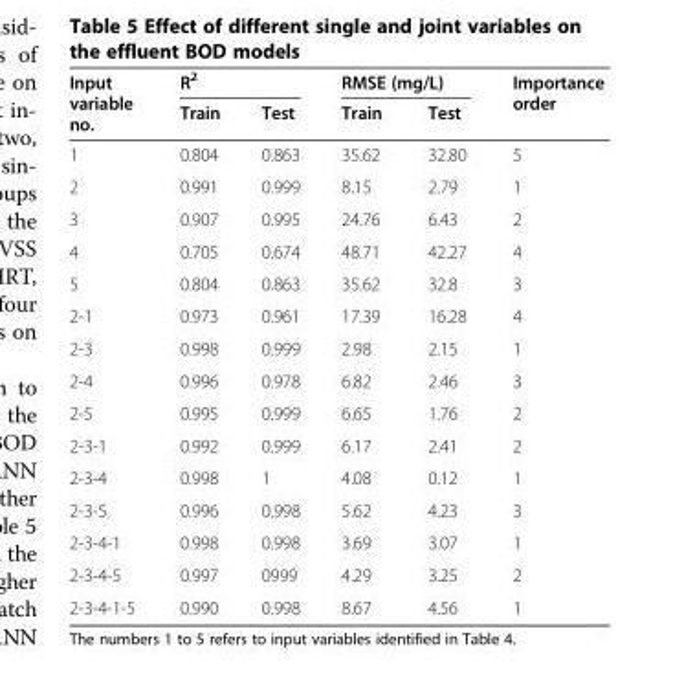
<table><thead><tr><td rowspan="2">Input variable no.</td><td colspan="2">R<sup>2</sup></td><td colspan="2">RMSE (mg/L)</td><td rowspan="2">Importance order</td></tr><tr><td>Train</td><td>Test</td><td>Train</td><td>Test</td></tr></thead><tbody><tr><td>1</td><td>0.804</td><td>0.863</td><td>35.62</td><td>32.80</td><td>5</td></tr><tr><td>2</td><td>0.991</td><td>0.999</td><td>8.15</td><td>2.79</td><td>1</td></tr><tr><td>3</td><td>0.907</td><td>0.995</td><td>24.76</td><td>6.43</td><td>2</td></tr><tr><td>4</td><td>0.705</td><td>0.674</td><td>48.71</td><td>42.27</td><td>4</td></tr><tr><td>5</td><td>0.804</td><td>0.863</td><td>35.62</td><td>32.8</td><td>3</td></tr><tr><td>2-1</td><td>0.973</td><td>0.961</td><td>17.39</td><td>16.28</td><td>4</td></tr><tr><td>2-3</td><td>0.998</td><td>0.999</td><td>2.98</td><td>2.15</td><td>1</td></tr><tr><td>2-4</td><td>0.996</td><td>0.978</td><td>6.82</td><td>2.46</td><td>3</td></tr><tr><td>2-5</td><td>0.995</td><td>0.999</td><td>6.65</td><td>1.76</td><td>2</td></tr><tr><td>2-3-1</td><td>0.992</td><td>0.999</td><td>6.17</td><td>2.41</td><td>2</td></tr><tr><td>2-3-4</td><td>0.998</td><td>1</td><td>4.08</td><td>0.12</td><td>1</td></tr><tr><td>2-3-5</td><td>0.996</td><td>0.998</td><td>5.62</td><td>4.23</td><td>3</td></tr><tr><td>2-3-4-1</td><td>0.998</td><td>0.998</td><td>3.69</td><td>3.07</td><td>1</td></tr><tr><td>2-3-4-5</td><td>0.997</td><td>0999</td><td>4.29</td><td>3.25</td><td>2</td></tr><tr><td>2-3-4-1-5</td><td>0.990</td><td>0.998</td><td>8.67</td><td>4.56</td><td>1</td></tr></tbody></table>